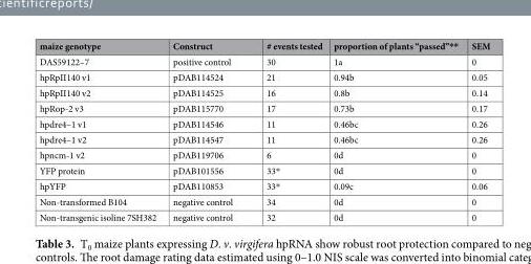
<table><thead><tr><td>maize genotype</td><td>Construct</td><td># events tested</td><td>proportion of plants “passed”**</td><td>SEM</td></tr></thead><tbody><tr><td>DAS59122–7</td><td>positive control</td><td>30</td><td>1a</td><td>0</td></tr><tr><td>hpRpII140 v1</td><td>pDAB114524</td><td>21</td><td>0.94b</td><td>0.05</td></tr><tr><td>hpRpII140 v2</td><td>pDAB114525</td><td>16</td><td>0.8b</td><td>0.14</td></tr><tr><td>hpRop-2 v3</td><td>pDAB115770</td><td>17</td><td>0.73b</td><td>0.17</td></tr><tr><td>hpdre4–1 v1</td><td>pDAB114546</td><td>11</td><td>0.46bc</td><td>0.26</td></tr><tr><td>hpdre4–1 v2</td><td>pDAB114547</td><td>11</td><td>0.46bc</td><td>0.26</td></tr><tr><td>hpncm-1 v2</td><td>pDAB119706</td><td>6</td><td>0d</td><td>0</td></tr><tr><td>YFP protein</td><td>pDAB101556</td><td>33*</td><td>0d</td><td>0</td></tr><tr><td>hpYFP</td><td>pDAB110853</td><td>33*</td><td>0.09c</td><td>0.06</td></tr><tr><td>Non-transformed B104</td><td>negative control</td><td>34</td><td>0d</td><td>0</td></tr><tr><td>Non-transgenic isoline 7SH382</td><td>negative control</td><td>32</td><td>0d</td><td>0</td></tr></tbody></table>